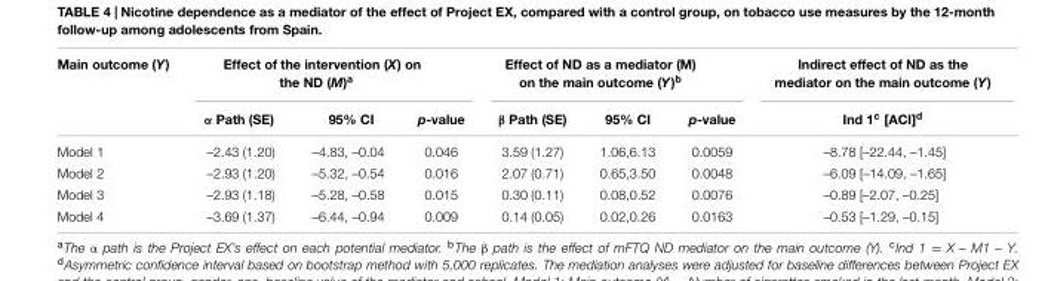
<table><thead><tr><td rowspan="2">Main outcome (Y)</td><td colspan="3">Effect of the intervention (X) on the ND (M)<sup>a</sup></td><td colspan="3">Effect of ND as a mediator (M) on the main outcome (Y)<sup>b</sup></td><td rowspan="2">Indirect effect of ND as the mediator on the main outcome (Y) Ind 1<sup>c</sup> [ACI]<sup>d</sup></td></tr><tr><td>α Path (SE)</td><td>95% CI</td><td>p-value</td><td>β Path (SE)</td><td>95% CI</td><td>p-value</td></tr></thead><tbody><tr><td>Model 1</td><td>–2.43 (1.20)</td><td>–4.83, –0.04</td><td>0.046</td><td>3.59 (1.27)</td><td>1.06,6.13</td><td>0.0059</td><td>–8.78 [–22.44, –1.45]</td></tr><tr><td>Model 2</td><td>–2.93 (1.20)</td><td>–5.32, –0.54</td><td>0.016</td><td>2.07 (0.71)</td><td>0.65,3.50</td><td>0.0048</td><td>–6.09 [–14.09, –1.65]</td></tr><tr><td>Model 3</td><td>–2.93 (1.18)</td><td>–5.28, –0.58</td><td>0.015</td><td>0.30 (0.11)</td><td>0.08,0.52</td><td>0.0076</td><td>–0.89 [–2.07, –0.25]</td></tr><tr><td>Model 4</td><td>–3.69 (1.37)</td><td>–6.44, –0.94</td><td>0.009</td><td>0.14 (0.05)</td><td>0.02,0.26</td><td>0.0163</td><td>–0.53 [–1.29, –0.15]</td></tr></tbody></table>